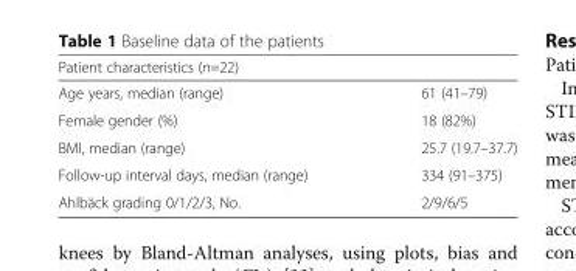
<table><thead><tr><td colspan="2">Patient characteristics (n=22)</td></tr><tr><td>Age years, median (range)</td><td>61 (41–79)</td></tr></thead><tbody><tr><td>Female gender (%)</td><td>18 (82%)</td></tr><tr><td>BMI, median (range)</td><td>25.7 (19.7–37.7)</td></tr><tr><td>Follow-up interval days, median (range)</td><td>334 (91–375)</td></tr><tr><td>Ahlbäck grading 0/1/2/3, No.</td><td>2/9/6/5</td></tr></tbody></table>